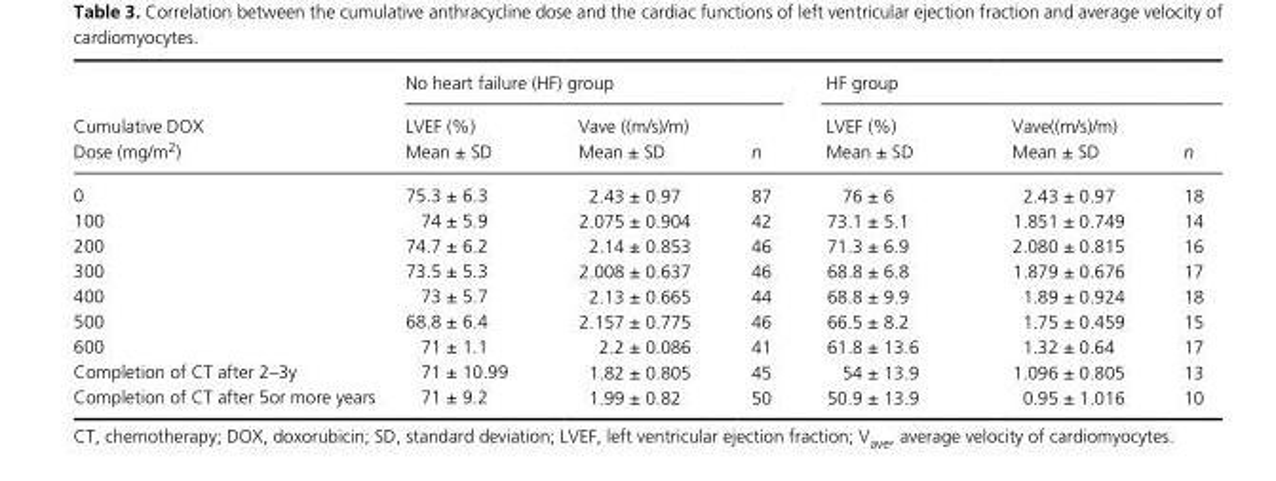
<table><thead><tr><td rowspan="2">Cumulative DOX Dose (mg/m<sup>2</sup>)</td><td colspan="3">No heart failure (HF) group</td><td colspan="3">HF group</td></tr><tr><td>LVEF (%) Mean ± SD</td><td>Vave ((m/s)/m) Mean ± SD</td><td>n</td><td>LVEF (%) Mean ± SD</td><td>Vave((m/s)/m) Mean ± SD</td><td>n</td></tr></thead><tbody><tr><td>0</td><td>75.3 ± 6.3</td><td>2.43 ± 0.97</td><td>87</td><td>76 ± 6</td><td>2.43 ± 0.97</td><td>18</td></tr><tr><td>100</td><td>74 ± 5.9</td><td>2.075 ± 0.904</td><td>42</td><td>73.1 ± 5.1</td><td>1.851 ± 0.749</td><td>14</td></tr><tr><td>200</td><td>74.7 ± 6.2</td><td>2.14 ± 0.853</td><td>46</td><td>71.3 ± 6.9</td><td>2.080 ± 0.815</td><td>16</td></tr><tr><td>300</td><td>73.5 ± 5.3</td><td>2.008 ± 0.637</td><td>46</td><td>68.8 ± 6.8</td><td>1.879 ± 0.676</td><td>17</td></tr><tr><td>400</td><td>73 ± 5.7</td><td>2.13 ± 0.665</td><td>44</td><td>68.8 ± 9.9</td><td>1.89 ± 0.924</td><td>18</td></tr><tr><td>500</td><td>68.8 ± 6.4</td><td>2.157 ± 0.775</td><td>46</td><td>66.5 ± 8.2</td><td>1.75 ± 0.459</td><td>15</td></tr><tr><td>600</td><td>71 ± 1.1</td><td>2.2 ± 0.086</td><td>41</td><td>61.8 ± 13.6</td><td>1.32 ± 0.64</td><td>17</td></tr><tr><td>Completion of CT after 2–3y</td><td>71 ± 10.99</td><td>1.82 ± 0.805</td><td>45</td><td>54 ± 13.9</td><td>1.096 ± 0.805</td><td>13</td></tr><tr><td>Completion of CT after 5or more years</td><td>71 ± 9.2</td><td>1.99 ± 0.82</td><td>50</td><td>50.9 ± 13.9</td><td>0.95 ± 1.016</td><td>10</td></tr></tbody></table>